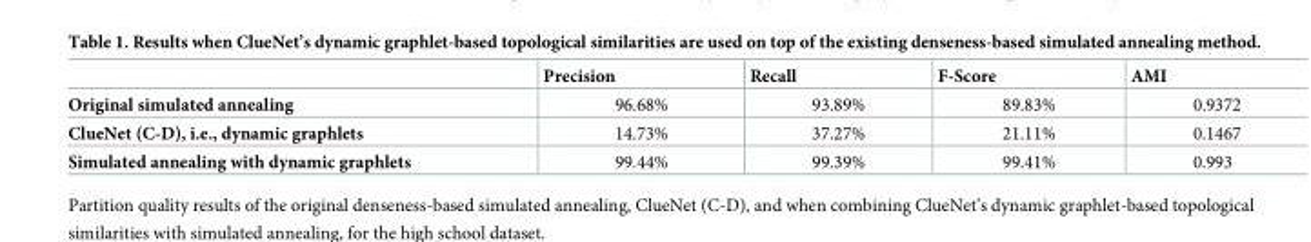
<table><thead><tr><td></td><td>Precision</td><td>Recall</td><td>F-Score</td><td>AMI</td></tr></thead><tbody><tr><td>Original simulated annealing</td><td>96.68%</td><td>93.89%</td><td>89.83%</td><td>0.9372</td></tr><tr><td>ClueNet (C-D), i.e., dynamic graphlets</td><td>14.73%</td><td>37.27%</td><td>21.11%</td><td>0.1467</td></tr><tr><td>Simulated annealing with dynamic graphlets</td><td>99.44%</td><td>99.39%</td><td>99.41%</td><td>0.993</td></tr></tbody></table>